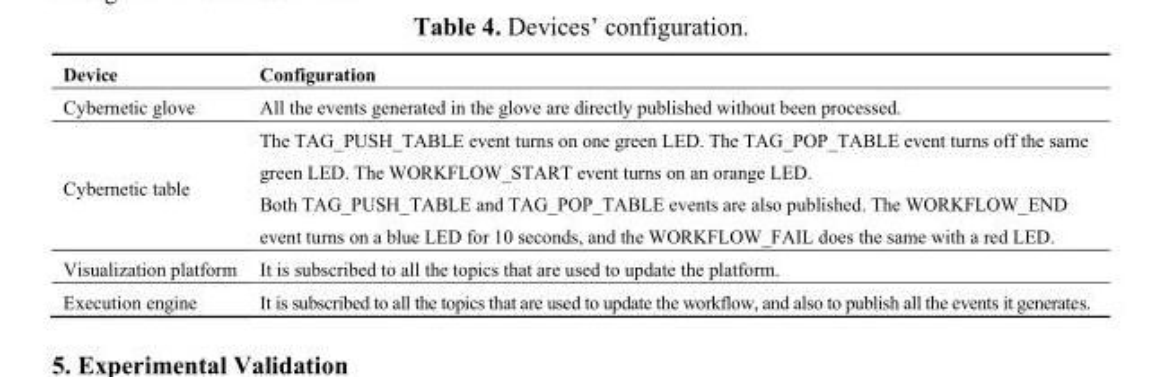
<table><thead><tr><td>Device</td><td>Configuration</td></tr></thead><tbody><tr><td>Cybernetic glove</td><td>All the events generated in the glove are directly published without been processed.</td></tr><tr><td>Cybernetic table</td><td>The TAG_PUSH_TABLE event turns on one green LED. The TAG_POP_TABLE event turns off the same green LED. The WORKFLOW_START event turns on an orange LED. Both TAG_PUSH_TABLE and TAG_POP_TABLE events are also published. The WORKFLOW_END event turns on a blue LED for 10 seconds, and the WORKFLOW_FAIL does the same with a red LED.</td></tr><tr><td>Visualization platform</td><td>It is subscribed to all the topics that are used to update the platform.</td></tr><tr><td>Execution engine</td><td>It is subscribed to all the topics that are used to update the workflow, and also to publish all the events it generates.</td></tr></tbody></table>